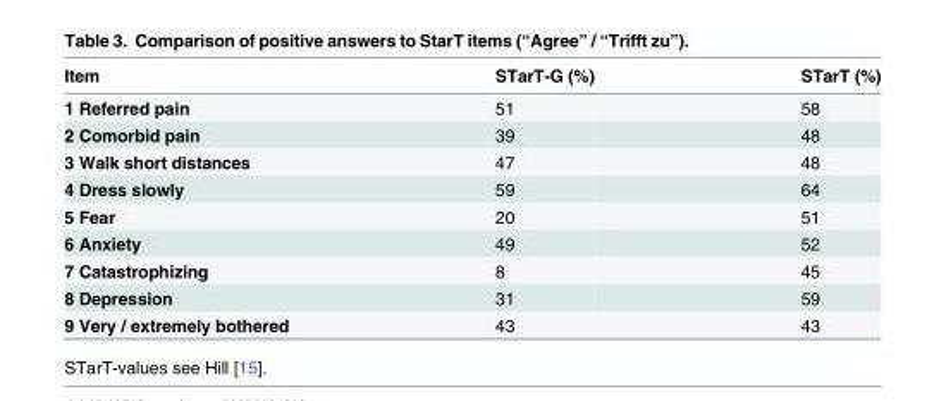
<table><thead><tr><td>Item</td><td>STarT-G (%)</td><td>STarT (%)</td></tr></thead><tbody><tr><td>1 Referred pain</td><td>51</td><td>58</td></tr><tr><td>2 Comorbid pain</td><td>39</td><td>48</td></tr><tr><td>3 Walk short distances</td><td>47</td><td>48</td></tr><tr><td>4 Dress slowly</td><td>59</td><td>64</td></tr><tr><td>5 Fear</td><td>20</td><td>51</td></tr><tr><td>6 Anxiety</td><td>49</td><td>52</td></tr><tr><td>7 Catastrophizing</td><td>8</td><td>45</td></tr><tr><td>8 Depression</td><td>31</td><td>59</td></tr><tr><td>9 Very / extremely bothered</td><td>43</td><td>43</td></tr></tbody></table>